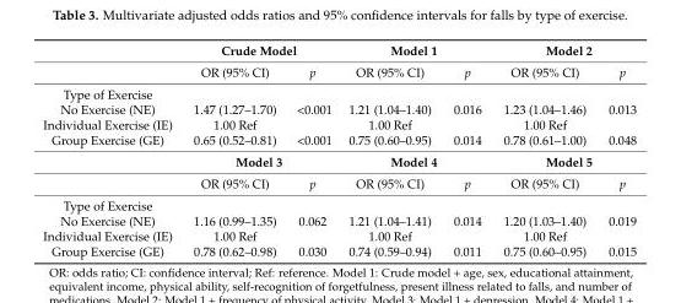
<table><thead><tr><td rowspan="2"></td><td colspan="2">Crude Model</td><td colspan="2">Model 1</td><td colspan="2">Model 2</td></tr><tr><td>OR (95% CI)</td><td>p</td><td>OR (95% CI)</td><td>p</td><td>OR (95% CI)</td><td>p</td></tr></thead><tbody><tr><td colspan="7">Type of Exercise</td></tr><tr><td>No Exercise (NE)</td><td>1.47 (1.27–1.70)</td><td>&lt;0.001</td><td>1.21 (1.04–1.40)</td><td>0.016</td><td>1.23 (1.04–1.46)</td><td>0.013</td></tr><tr><td>Individual Exercise (IE)</td><td>1.00 Ref</td><td></td><td>1.00 Ref</td><td></td><td>1.00 Ref</td><td></td></tr><tr><td rowspan="3">Group Exercise (GE)</td><td>0.65 (0.52–0.81)</td><td>&lt;0.001</td><td>0.75 (0.60–0.95)</td><td>0.014</td><td>0.78 (0.61–1.00)</td><td>0.048</td></tr><tr><td colspan="2">Model 3</td><td colspan="2">Model 4</td><td colspan="2">Model 5</td></tr><tr><td>OR (95% CI)</td><td>p</td><td>OR (95% CI)</td><td>p</td><td>OR (95% CI)</td><td>p</td></tr><tr><td colspan="7">Type of Exercise</td></tr><tr><td>No Exercise (NE)</td><td>1.16 (0.99–1.35)</td><td>0.062</td><td>1.21 (1.04–1.41)</td><td>0.014</td><td>1.20 (1.03–1.40)</td><td>0.019</td></tr><tr><td>Individual Exercise (IE)</td><td>1.00 Ref</td><td></td><td>1.00 Ref</td><td></td><td>1.00 Ref</td><td></td></tr><tr><td>Group Exercise (GE)</td><td>0.78 (0.62–0.98)</td><td>0.030</td><td>0.74 (0.59–0.94)</td><td>0.011</td><td>0.75 (0.60–0.95)</td><td>0.015</td></tr></tbody></table>